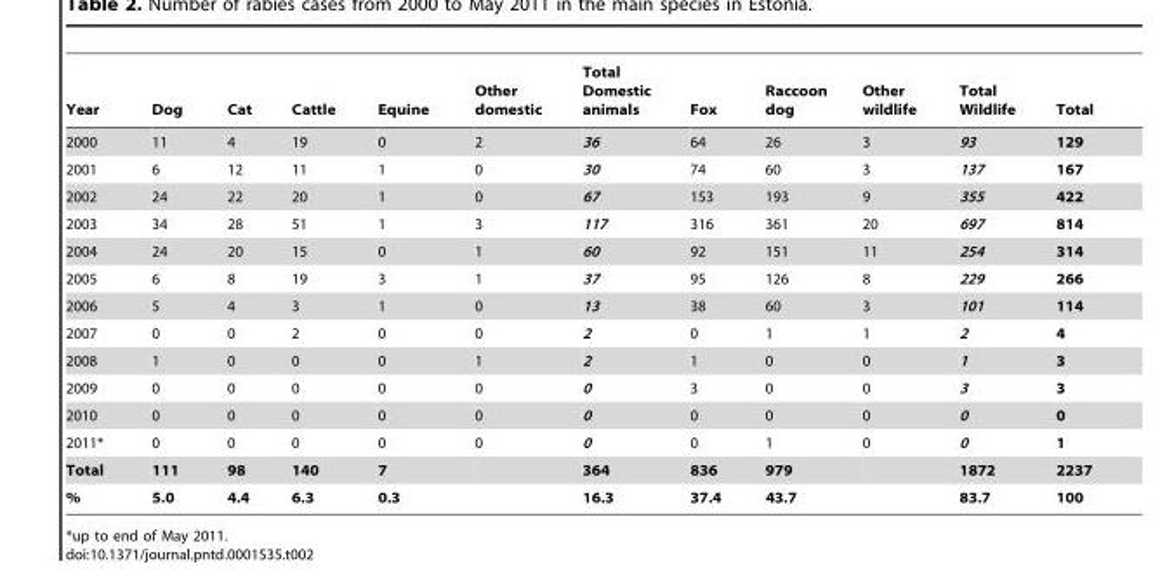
<table><thead><tr><td>Year</td><td>Dog</td><td>Cat</td><td>Cattle</td><td>Equine</td><td>Other domestic</td><td>Total Domestic animals</td><td>Fox</td><td>Raccoon dog</td><td>Other wildlife</td><td>Total Wildlife</td><td>Total</td></tr></thead><tbody><tr><td>2000</td><td>11</td><td>4</td><td>19</td><td>0</td><td>2</td><td>36</td><td>64</td><td>26</td><td>3</td><td>93</td><td>129</td></tr><tr><td>2001</td><td>6</td><td>12</td><td>11</td><td>1</td><td>0</td><td>30</td><td>74</td><td>60</td><td>3</td><td>137</td><td>167</td></tr><tr><td>2002</td><td>24</td><td>22</td><td>20</td><td>1</td><td>0</td><td>67</td><td>153</td><td>193</td><td>9</td><td>355</td><td>422</td></tr><tr><td>2003</td><td>34</td><td>28</td><td>51</td><td>1</td><td>3</td><td>117</td><td>316</td><td>361</td><td>20</td><td>697</td><td>814</td></tr><tr><td>2004</td><td>24</td><td>20</td><td>15</td><td>0</td><td>1</td><td>60</td><td>92</td><td>151</td><td>11</td><td>254</td><td>314</td></tr><tr><td>2005</td><td>6</td><td>8</td><td>19</td><td>3</td><td>1</td><td>37</td><td>95</td><td>126</td><td>8</td><td>229</td><td>266</td></tr><tr><td>2006</td><td>5</td><td>4</td><td>3</td><td>1</td><td>0</td><td>13</td><td>38</td><td>60</td><td>3</td><td>101</td><td>114</td></tr><tr><td>2007</td><td>0</td><td>0</td><td>2</td><td>0</td><td>0</td><td>2</td><td>0</td><td>1</td><td>1</td><td>2</td><td>4</td></tr><tr><td>2008</td><td>1</td><td>0</td><td>0</td><td>0</td><td>1</td><td>2</td><td>1</td><td>0</td><td>0</td><td>1</td><td>3</td></tr><tr><td>2009</td><td>0</td><td>0</td><td>0</td><td>0</td><td>0</td><td>0</td><td>3</td><td>0</td><td>0</td><td>3</td><td>3</td></tr><tr><td>2010</td><td>0</td><td>0</td><td>0</td><td>0</td><td>0</td><td>0</td><td>0</td><td>0</td><td>0</td><td>0</td><td>0</td></tr><tr><td>2011*</td><td>0</td><td>0</td><td>0</td><td>0</td><td>0</td><td>0</td><td>0</td><td>1</td><td>0</td><td>0</td><td>1</td></tr><tr><td>Total</td><td>111</td><td>98</td><td>140</td><td>7</td><td></td><td>364</td><td>836</td><td>979</td><td></td><td>1872</td><td>2237</td></tr><tr><td>%</td><td>5.0</td><td>4.4</td><td>6.3</td><td>0.3</td><td></td><td>16.3</td><td>37.4</td><td>43.7</td><td></td><td>83.7</td><td>100</td></tr></tbody></table>